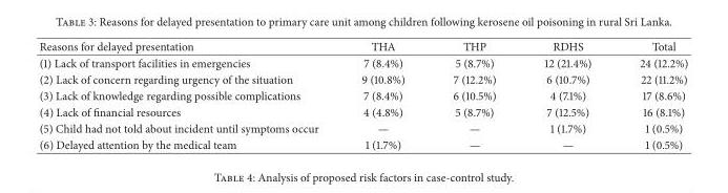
<table><thead><tr><td>Reasons for delayed presentation</td><td>THA</td><td>THP</td><td>RDHS</td><td>Total</td></tr></thead><tbody><tr><td>(1) Lack of transport facilities in emergencies</td><td>7 (8.4%)</td><td>5 (8.7%)</td><td>12 (21.4%)</td><td>24 (12.2%)</td></tr><tr><td>(2) Lack of concern regarding urgency of the situation</td><td>9 (10.8%)</td><td>7 (12.2%)</td><td>6 (10.7%)</td><td>22 (11.2%)</td></tr><tr><td>(3) Lack of knowledge regarding possible complications</td><td>7 (8.4%)</td><td>6 (10.5%)</td><td>4 (7.1%)</td><td>17 (8.6%)</td></tr><tr><td>(4) Lack of financial resources</td><td>4 (4.8%)</td><td>5 (8.7%)</td><td>7 (12.5%)</td><td>16 (8.1%)</td></tr><tr><td>(5) Child had not told about incident until symptoms occur</td><td>—</td><td>—</td><td>1 (1.7%)</td><td>1 (0.5%)</td></tr><tr><td>(6) Delayed attention by the medical team</td><td>1 (1.7%)</td><td>—</td><td>—</td><td>1 (0.5%)</td></tr></tbody></table>